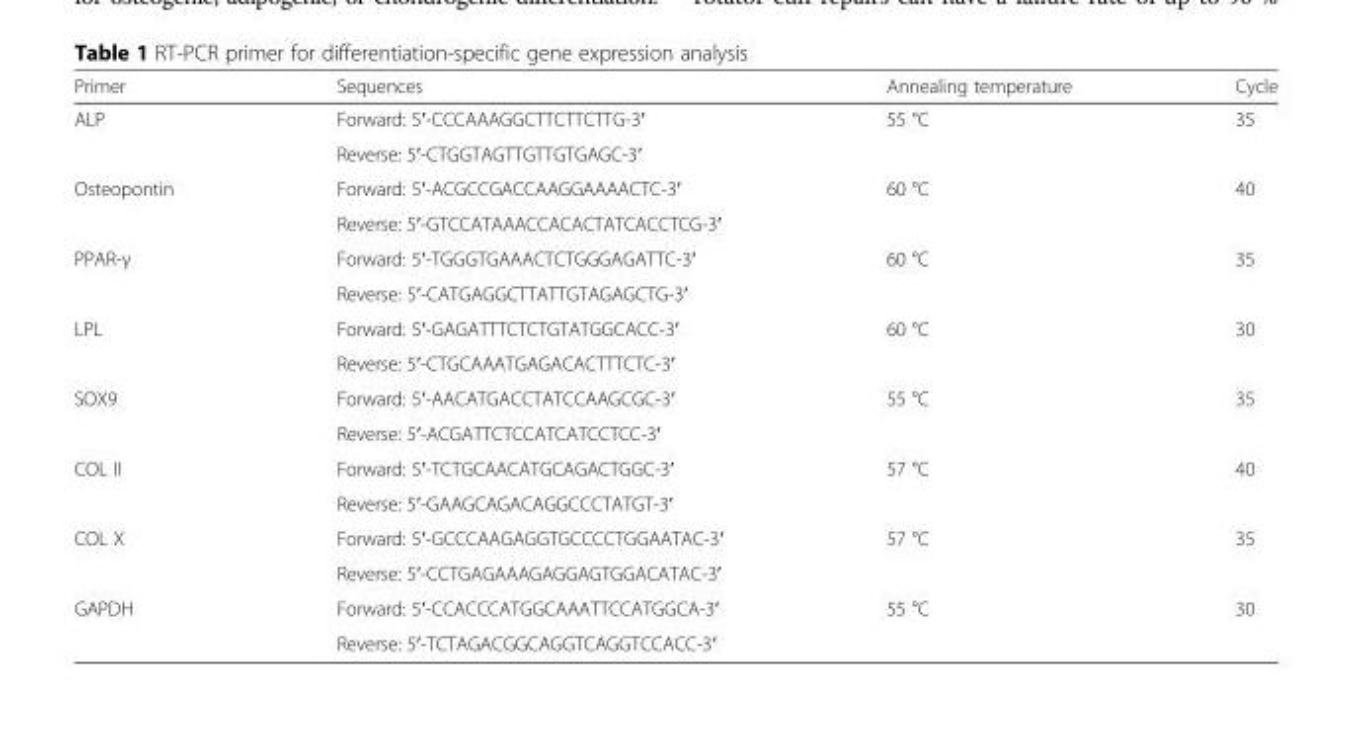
<table><thead><tr><td>Primer</td><td>Sequences</td><td>Annealing temperature</td><td>Cycle</td></tr></thead><tbody><tr><td rowspan="2">ALP</td><td>Forward: 5′-CCCAAAGGCTTCTTCTTG-3′</td><td>55 °C</td><td>35</td></tr><tr><td>Reverse: 5′-CTGGTAGTTGTTGTGAGC-3′</td><td></td><td></td></tr><tr><td rowspan="2">Osteopontin</td><td>Forward: 5′-ACGCCGACCAAGGAAAACTC-3′</td><td>60 °C</td><td>40</td></tr><tr><td>Reverse: 5′-GTCCATAAACCACACTATCACCTCG-3′</td><td></td><td></td></tr><tr><td rowspan="2">PPAR-γ</td><td>Forward: 5′-TGGGTGAAACTCTGGGAGATTC-3′</td><td>60 °C</td><td>35</td></tr><tr><td>Reverse: 5′-CATGAGGCTTATTGTAGAGCTG-3′</td><td></td><td></td></tr><tr><td rowspan="2">LPL</td><td>Forward: 5′-GAGATTTCTCTGTATGGCACC-3′</td><td>60 °C</td><td>30</td></tr><tr><td>Reverse: 5′-CTGCAAATGAGACACTTTCTC-3′</td><td></td><td></td></tr><tr><td rowspan="2">SOX9</td><td>Forward: 5′-AACATGACCTATCCAAGCGC-3′</td><td>55 °C</td><td>35</td></tr><tr><td>Reverse: 5′-ACGATTCTCCATCATCCTCC-3′</td><td></td><td></td></tr><tr><td rowspan="2">COL II</td><td>Forward: 5′-TCTGCAACATGCAGACTGGC-3′</td><td>57 °C</td><td>40</td></tr><tr><td>Reverse: 5′-GAAGCAGACAGGCCCTATGT-3′</td><td></td><td></td></tr><tr><td rowspan="2">COL X</td><td>Forward: 5′-GCCCAAGAGGTGCCCCTGGAATAC-3′</td><td>57 °C</td><td>35</td></tr><tr><td>Reverse: 5′-CCTGAGAAAGAGGAGTGGACATAC-3′</td><td></td><td></td></tr><tr><td rowspan="2">GAPDH</td><td>Forward: 5′-CCACCCATGGCAAATTCCATGGCA-3′</td><td>55 °C</td><td>30</td></tr><tr><td>Reverse: 5′-TCTAGACGGCAGGTCAGGTCCACC-3′</td><td></td><td></td></tr></tbody></table>